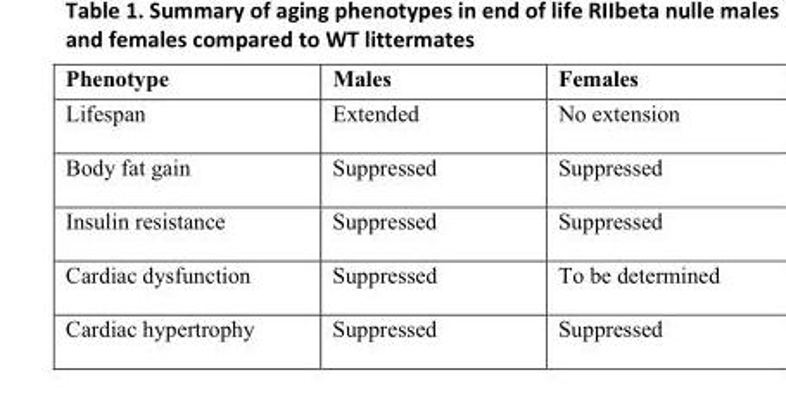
<table><thead><tr><td>Phenotype</td><td>Males</td><td>Females</td></tr></thead><tbody><tr><td>Lifespan</td><td>Extended</td><td>No extension</td></tr><tr><td>Body fat gain</td><td>Suppressed</td><td>Suppressed</td></tr><tr><td>Insulin resistance</td><td>Suppressed</td><td>Suppressed</td></tr><tr><td>Cardiac dysfunction</td><td>Suppressed</td><td>To be determined</td></tr><tr><td>Cardiac hypertrophy</td><td>Suppressed</td><td>Suppressed</td></tr></tbody></table>